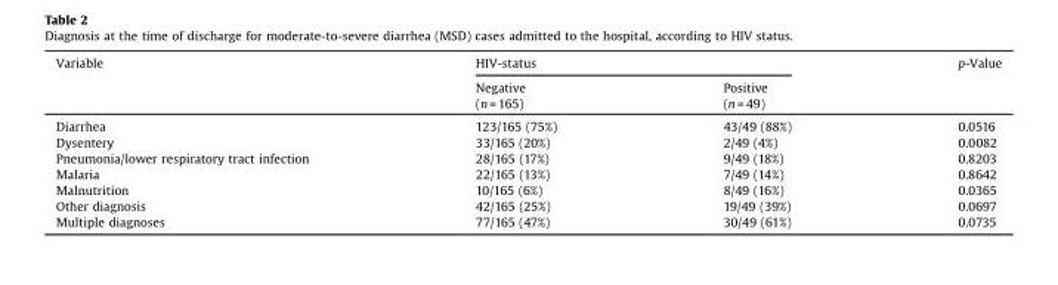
<table><thead><tr><td rowspan="2">Variable</td><td colspan="2">HIV-status</td><td rowspan="2">p-Value</td></tr><tr><td>Negative (n = 165)</td><td>Positive (n = 49)</td></tr></thead><tbody><tr><td>Diarrhea</td><td>123/165 (75%)</td><td>43/49 (88%)</td><td>0.0516</td></tr><tr><td>Dysentery</td><td>33/165 (20%)</td><td>2/49 (4%)</td><td>0.0082</td></tr><tr><td>Pneumonia/lower respiratory tract infection</td><td>28/165 (17%)</td><td>9/49 (18%)</td><td>0.8203</td></tr><tr><td>Malaria</td><td>22/165 (13%)</td><td>7/49 (14%)</td><td>0.8642</td></tr><tr><td>Malnutrition</td><td>10/165 (6%)</td><td>8/49 (16%)</td><td>0.0365</td></tr><tr><td>Other diagnosis</td><td>42/165 (25%)</td><td>19/49 (39%)</td><td>0.0697</td></tr><tr><td>Multiple diagnoses</td><td>77/165 (47%)</td><td>30/49 (61%)</td><td>0.0735</td></tr></tbody></table>